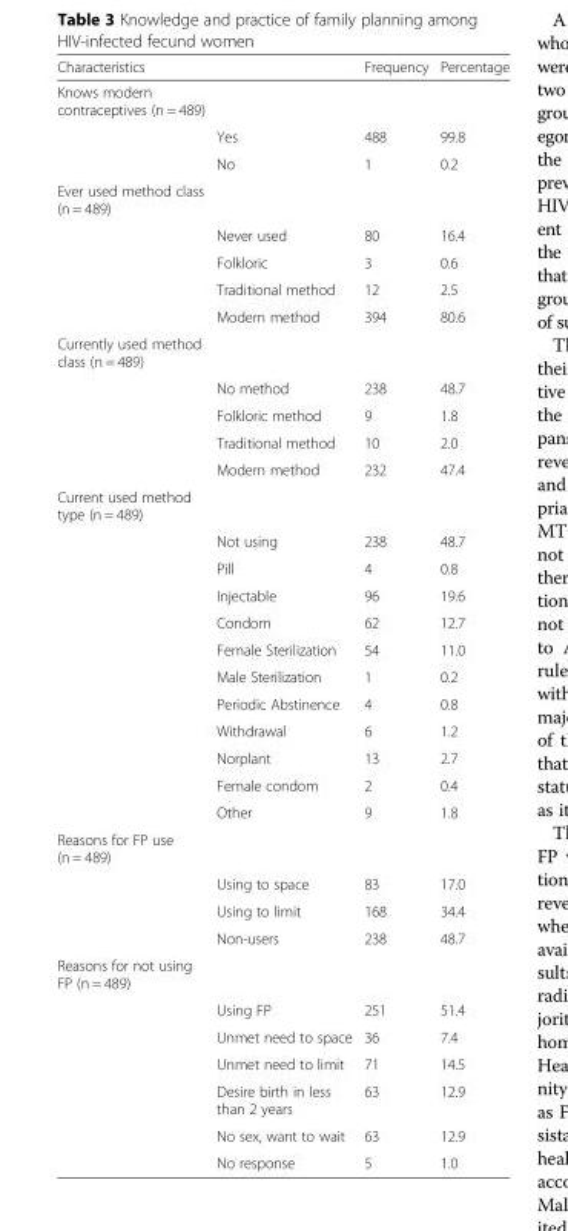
<table><thead><tr><td colspan="2">Characteristics</td><td rowspan="2">Frequency</td><td rowspan="2">Percentage</td></tr><tr><td>Knows modern contraceptives (n = 489)</td><td></td></tr></thead><tbody><tr><td></td><td>Yes</td><td>488</td><td>99.8</td></tr><tr><td></td><td>No</td><td>1</td><td>0.2</td></tr><tr><td colspan="4">Ever used method class (n = 489)</td></tr><tr><td></td><td>Never used</td><td>80</td><td>16.4</td></tr><tr><td></td><td>Folkloric</td><td>3</td><td>0.6</td></tr><tr><td></td><td>Traditional method</td><td>12</td><td>2.5</td></tr><tr><td></td><td>Modern method</td><td>394</td><td>80.6</td></tr><tr><td colspan="4">Currently used method class (n = 489)</td></tr><tr><td></td><td>No method</td><td>238</td><td>48.7</td></tr><tr><td></td><td>Folkloric method</td><td>9</td><td>1.8</td></tr><tr><td></td><td>Traditional method</td><td>10</td><td>2.0</td></tr><tr><td></td><td>Modern method</td><td>232</td><td>47.4</td></tr><tr><td colspan="4">Current used method type (n = 489)</td></tr><tr><td></td><td>Not using</td><td>238</td><td>48.7</td></tr><tr><td></td><td>Pill</td><td>4</td><td>0.8</td></tr><tr><td></td><td>Injectable</td><td>96</td><td>19.6</td></tr><tr><td></td><td>Condom</td><td>62</td><td>12.7</td></tr><tr><td></td><td>Female Sterilization</td><td>54</td><td>11.0</td></tr><tr><td></td><td>Male Sterilization</td><td>1</td><td>0.2</td></tr><tr><td></td><td>Periodic Abstinence</td><td>4</td><td>0.8</td></tr><tr><td></td><td>Withdrawal</td><td>6</td><td>1.2</td></tr><tr><td></td><td>Norplant</td><td>13</td><td>2.7</td></tr><tr><td></td><td>Female condom</td><td>2</td><td>0.4</td></tr><tr><td></td><td>Other</td><td>9</td><td>1.8</td></tr><tr><td colspan="4">Reasons for FP use (n = 489)</td></tr><tr><td></td><td>Using to space</td><td>83</td><td>17.0</td></tr><tr><td></td><td>Using to limit</td><td>168</td><td>34.4</td></tr><tr><td></td><td>Non-users</td><td>238</td><td>48.7</td></tr><tr><td colspan="4">Reasons for not using FP (n = 489)</td></tr><tr><td></td><td>Using FP</td><td>251</td><td>51.4</td></tr><tr><td></td><td>Unmet need to space</td><td>36</td><td>7.4</td></tr><tr><td></td><td>Unmet need to limit</td><td>71</td><td>14.5</td></tr><tr><td></td><td>Desire birth in less than 2 years</td><td>63</td><td>12.9</td></tr><tr><td></td><td>No sex, want to wait</td><td>63</td><td>12.9</td></tr><tr><td></td><td>No response</td><td>5</td><td>1.0</td></tr></tbody></table>